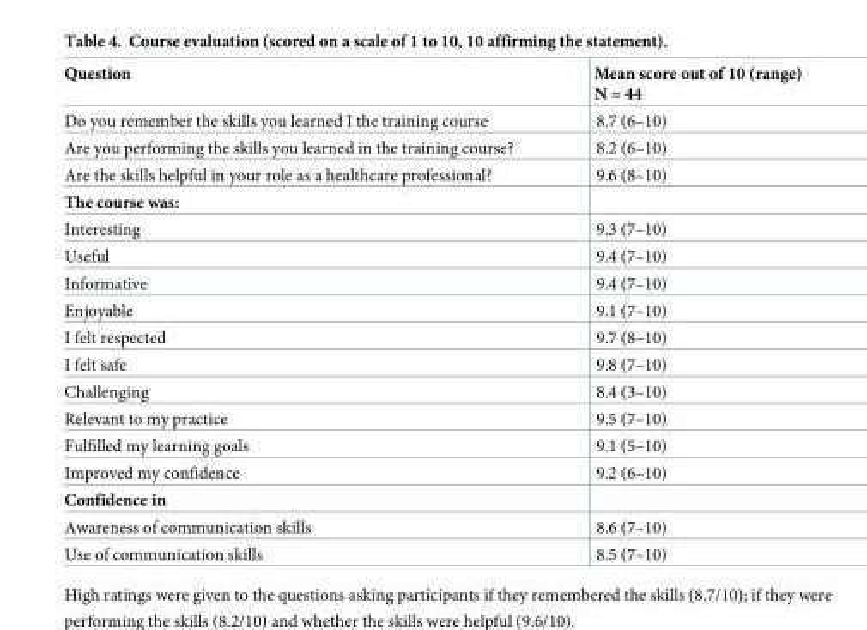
<table><thead><tr><td>Question</td><td>Mean score out of 10 (range) N = 44</td></tr></thead><tbody><tr><td>Do you remember the skills you learned I the training course</td><td>8.7 (6–10)</td></tr><tr><td>Are you performing the skills you learned in the training course?</td><td>8.2 (6–10)</td></tr><tr><td>Are the skills helpful in your role as a healthcare professional?</td><td>9.6 (8–10)</td></tr><tr><td colspan="2">The course was:</td></tr><tr><td>Interesting</td><td>9.3 (7–10)</td></tr><tr><td>Useful</td><td>9.4 (7–10)</td></tr><tr><td>Informative</td><td>9.4 (7–10)</td></tr><tr><td>Enjoyable</td><td>9.1 (7–10)</td></tr><tr><td>I felt respected</td><td>9.7 (8–10)</td></tr><tr><td>I felt safe</td><td>9.8 (7–10)</td></tr><tr><td>Challenging</td><td>8.4 (3–10)</td></tr><tr><td>Relevant to my practice</td><td>9.5 (7–10)</td></tr><tr><td>Fulfilled my learning goals</td><td>9.1 (5–10)</td></tr><tr><td>Improved my confidence</td><td>9.2 (6–10)</td></tr><tr><td colspan="2">Confidence in</td></tr><tr><td>Awareness of communication skills</td><td>8.6 (7–10)</td></tr><tr><td>Use of communication skills</td><td>8.5 (7–10)</td></tr></tbody></table>